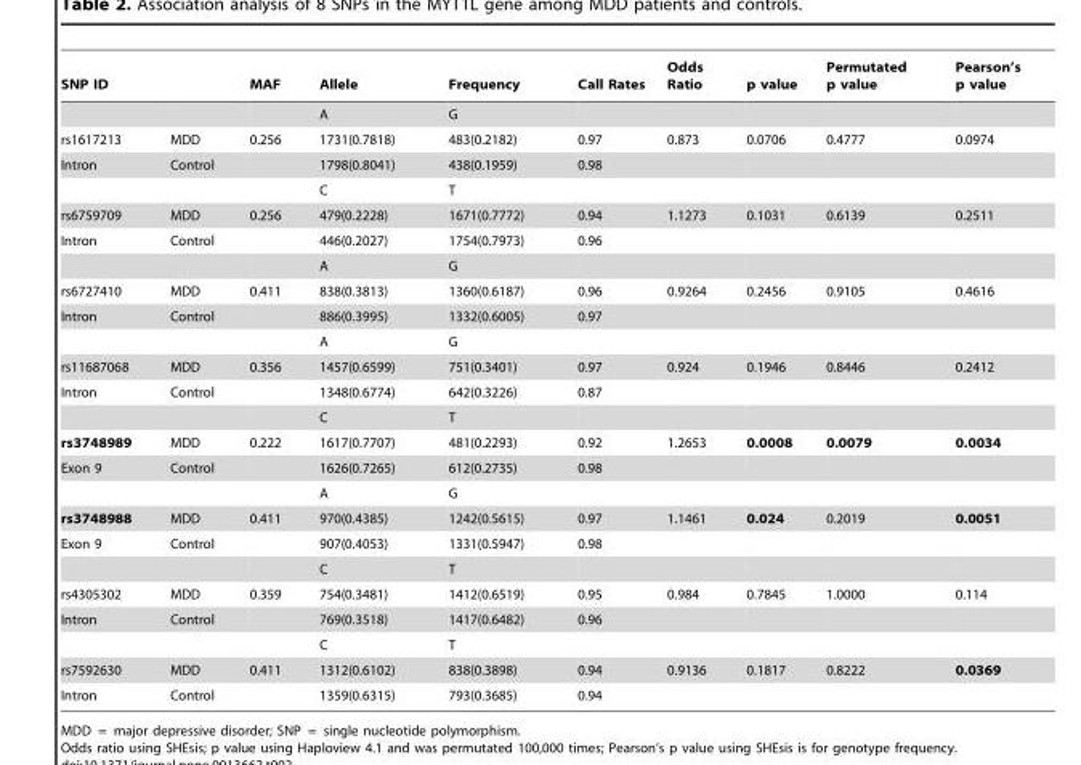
<table><thead><tr><td>SNP ID</td><td></td><td>MAF</td><td>Allele</td><td>Frequency</td><td>Call Rates</td><td>Odds Ratio</td><td>p value</td><td>Permutated p value</td><td>Pearson’s p value</td></tr></thead><tbody><tr><td></td><td></td><td></td><td>A</td><td>G</td><td></td><td></td><td></td><td></td><td></td></tr><tr><td>rs1617213</td><td>MDD</td><td>0.256</td><td>1731(0.7818)</td><td>483(0.2182)</td><td>0.97</td><td>0.873</td><td>0.0706</td><td>0.4777</td><td>0.0974</td></tr><tr><td rowspan="2">Intron</td><td>Control</td><td></td><td>1798(0.8041)</td><td>438(0.1959)</td><td>0.98</td><td></td><td></td><td></td><td></td></tr><tr><td></td><td></td><td>C</td><td>T</td><td></td><td></td><td></td><td></td><td></td></tr><tr><td>rs6759709</td><td>MDD</td><td>0.256</td><td>479(0.2228)</td><td>1671(0.7772)</td><td>0.94</td><td>1.1273</td><td>0.1031</td><td>0.6139</td><td>0.2511</td></tr><tr><td rowspan="2">Intron</td><td>Control</td><td></td><td>446(0.2027)</td><td>1754(0.7973)</td><td>0.96</td><td></td><td></td><td></td><td></td></tr><tr><td></td><td></td><td>A</td><td>G</td><td></td><td></td><td></td><td></td><td></td></tr><tr><td>rs6727410</td><td>MDD</td><td>0.411</td><td>838(0.3813)</td><td>1360(0.6187)</td><td>0.96</td><td>0.9264</td><td>0.2456</td><td>0.9105</td><td>0.4616</td></tr><tr><td rowspan="2">Intron</td><td>Control</td><td></td><td>886(0.3995)</td><td>1332(0.6005)</td><td>0.97</td><td></td><td></td><td></td><td></td></tr><tr><td></td><td></td><td>A</td><td>G</td><td></td><td></td><td></td><td></td><td></td></tr><tr><td>rs11687068</td><td>MDD</td><td>0.356</td><td>1457(0.6599)</td><td>751(0.3401)</td><td>0.97</td><td>0.924</td><td>0.1946</td><td>0.8446</td><td>0.2412</td></tr><tr><td rowspan="2">Intron</td><td>Control</td><td></td><td>1348(0.6774)</td><td>642(0.3226)</td><td>0.87</td><td></td><td></td><td></td><td></td></tr><tr><td></td><td></td><td>C</td><td>T</td><td></td><td></td><td></td><td></td><td></td></tr><tr><td>rs3748989</td><td>MDD</td><td>0.222</td><td>1617(0.7707)</td><td>481(0.2293)</td><td>0.92</td><td>1.2653</td><td>0.0008</td><td>0.0079</td><td>0.0034</td></tr><tr><td rowspan="2">Exon 9</td><td>Control</td><td></td><td>1626(0.7265)</td><td>612(0.2735)</td><td>0.98</td><td></td><td></td><td></td><td></td></tr><tr><td></td><td></td><td>A</td><td>G</td><td></td><td></td><td></td><td></td><td></td></tr><tr><td>rs3748988</td><td>MDD</td><td>0.411</td><td>970(0.4385)</td><td>1242(0.5615)</td><td>0.97</td><td>1.1461</td><td>0.024</td><td>0.2019</td><td>0.0051</td></tr><tr><td rowspan="2">Exon 9</td><td>Control</td><td></td><td>907(0.4053)</td><td>1331(0.5947)</td><td>0.98</td><td></td><td></td><td></td><td></td></tr><tr><td></td><td></td><td>C</td><td>T</td><td></td><td></td><td></td><td></td><td></td></tr><tr><td>rs4305302</td><td>MDD</td><td>0.359</td><td>754(0.3481)</td><td>1412(0.6519)</td><td>0.95</td><td>0.984</td><td>0.7845</td><td>1.0000</td><td>0.114</td></tr><tr><td rowspan="2">Intron</td><td>Control</td><td></td><td>769(0.3518)</td><td>1417(0.6482)</td><td>0.96</td><td></td><td></td><td></td><td></td></tr><tr><td></td><td></td><td>C</td><td>T</td><td></td><td></td><td></td><td></td><td></td></tr><tr><td>rs7592630</td><td>MDD</td><td>0.411</td><td>1312(0.6102)</td><td>838(0.3898)</td><td>0.94</td><td>0.9136</td><td>0.1817</td><td>0.8222</td><td>0.0369</td></tr><tr><td>Intron</td><td>Control</td><td></td><td>1359(0.6315)</td><td>793(0.3685)</td><td>0.94</td><td></td><td></td><td></td><td></td></tr></tbody></table>